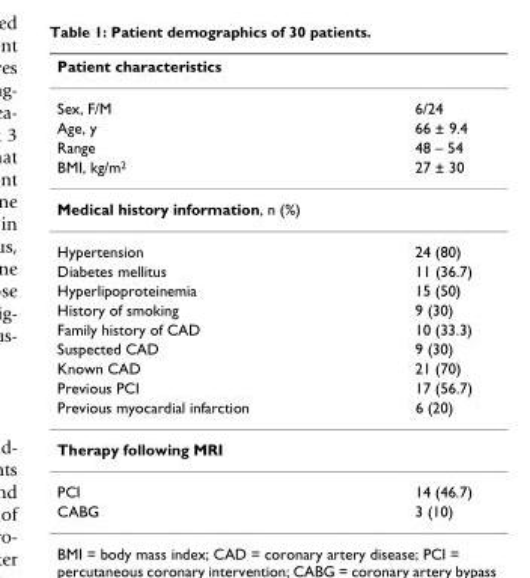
<table><thead><tr><td>Patient characteristics</td><td></td></tr></thead><tbody><tr><td>Sex, F/M</td><td>6/24</td></tr><tr><td>Age, y</td><td>66 ± 9.4</td></tr><tr><td>Range</td><td>48 – 54</td></tr><tr><td>BMI, kg/m<sup>2</sup></td><td>27 ± 30</td></tr><tr><td colspan="2">Medical history information, n (%)</td></tr><tr><td>Hypertension</td><td>24 (80)</td></tr><tr><td>Diabetes mellitus</td><td>11 (36.7)</td></tr><tr><td>Hyperlipoproteinemia</td><td>15 (50)</td></tr><tr><td>History of smoking</td><td>9 (30)</td></tr><tr><td>Family history of CAD</td><td>10 (33.3)</td></tr><tr><td>Suspected CAD</td><td>9 (30)</td></tr><tr><td>Known CAD</td><td>21 (70)</td></tr><tr><td>Previous PCI</td><td>17 (56.7)</td></tr><tr><td>Previous myocardial infarction</td><td>6 (20)</td></tr><tr><td colspan="2">Therapy following MRI</td></tr><tr><td>PCI</td><td>14 (46.7)</td></tr><tr><td>CABG</td><td>3 (10)</td></tr></tbody></table>